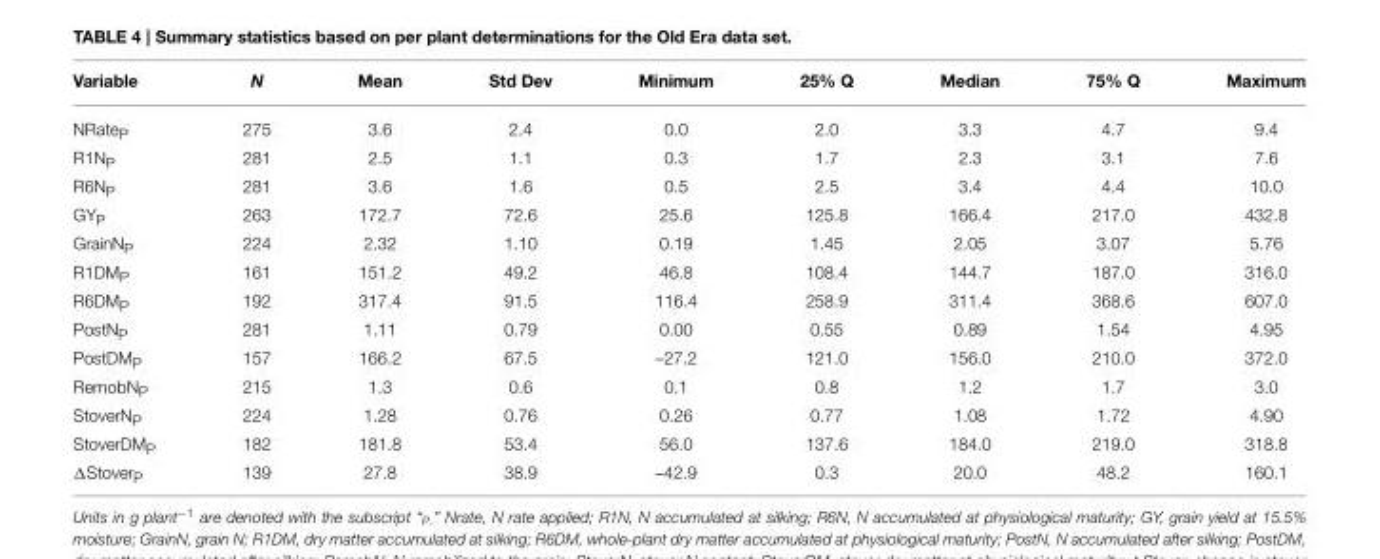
<table><thead><tr><td>Variable</td><td>N</td><td>Mean</td><td>Std Dev</td><td>Minimum</td><td>25% Q</td><td>Median</td><td>75% Q</td><td>Maximum</td></tr></thead><tbody><tr><td>NRate<sub>P</sub></td><td>275</td><td>3.6</td><td>2.4</td><td>0.0</td><td>2.0</td><td>3.3</td><td>4.7</td><td>9.4</td></tr><tr><td>R1N<sub>P</sub></td><td>281</td><td>2.5</td><td>1.1</td><td>0.3</td><td>1.7</td><td>2.3</td><td>3.1</td><td>7.6</td></tr><tr><td>R6N<sub>P</sub></td><td>281</td><td>3.6</td><td>1.6</td><td>0.5</td><td>2.5</td><td>3.4</td><td>4.4</td><td>10.0</td></tr><tr><td>GY<sub>P</sub></td><td>263</td><td>172.7</td><td>72.6</td><td>25.6</td><td>125.8</td><td>166.4</td><td>217.0</td><td>432.8</td></tr><tr><td>GrainN<sub>P</sub></td><td>224</td><td>2.32</td><td>1.10</td><td>0.19</td><td>1.45</td><td>2.05</td><td>3.07</td><td>5.76</td></tr><tr><td>R1DM<sub>P</sub></td><td>161</td><td>151.2</td><td>49.2</td><td>46.8</td><td>108.4</td><td>144.7</td><td>187.0</td><td>316.0</td></tr><tr><td>R6DM<sub>P</sub></td><td>192</td><td>317.4</td><td>91.5</td><td>116.4</td><td>258.9</td><td>311.4</td><td>368.6</td><td>607.0</td></tr><tr><td>PostN<sub>P</sub></td><td>281</td><td>1.11</td><td>0.79</td><td>0.00</td><td>0.55</td><td>0.89</td><td>1.54</td><td>4.95</td></tr><tr><td>PostDM<sub>P</sub></td><td>157</td><td>166.2</td><td>67.5</td><td>–27.2</td><td>121.0</td><td>156.0</td><td>210.0</td><td>372.0</td></tr><tr><td>RemobN<sub>P</sub></td><td>215</td><td>1.3</td><td>0.6</td><td>0.1</td><td>0.8</td><td>1.2</td><td>1.7</td><td>3.0</td></tr><tr><td>StoverN<sub>P</sub></td><td>224</td><td>1.28</td><td>0.76</td><td>0.26</td><td>0.77</td><td>1.08</td><td>1.72</td><td>4.90</td></tr><tr><td>StoverDM<sub>P</sub></td><td>182</td><td>181.8</td><td>53.4</td><td>56.0</td><td>137.6</td><td>184.0</td><td>219.0</td><td>318.8</td></tr><tr><td>ΔStover<sub>P</sub></td><td>139</td><td>27.8</td><td>38.9</td><td>–42.9</td><td>0.3</td><td>20.0</td><td>48.2</td><td>160.1</td></tr></tbody></table>